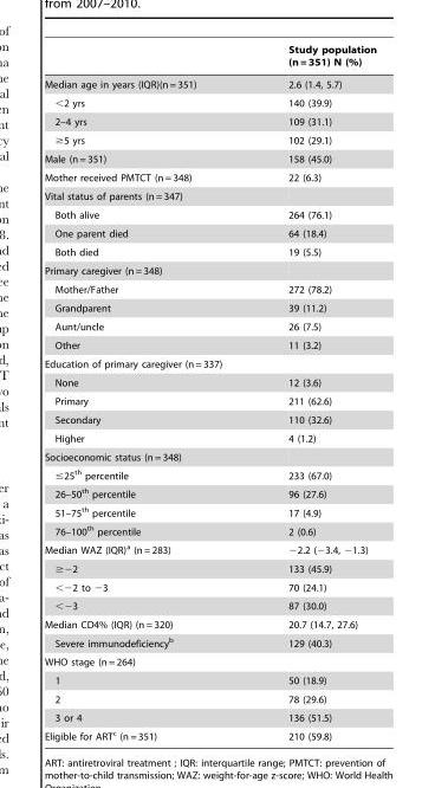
<table><thead><tr><td></td><td>Study population (n = 351) N (%)</td></tr></thead><tbody><tr><td>Median age in years (IQR)(n = 351)</td><td>2.6 (1.4, 5.7)</td></tr><tr><td>&lt;2 yrs</td><td>140 (39.9)</td></tr><tr><td>2–4 yrs</td><td>109 (31.1)</td></tr><tr><td>≥5 yrs</td><td>102 (29.1)</td></tr><tr><td>Male (n = 351)</td><td>158 (45.0)</td></tr><tr><td>Mother received PMTCT (n = 348)</td><td>22 (6.3)</td></tr><tr><td colspan="2">Vital status of parents (n = 347)</td></tr><tr><td>Both alive</td><td>264 (76.1)</td></tr><tr><td>One parent died</td><td>64 (18.4)</td></tr><tr><td>Both died</td><td>19 (5.5)</td></tr><tr><td colspan="2">Primary caregiver (n = 348)</td></tr><tr><td>Mother/Father</td><td>272 (78.2)</td></tr><tr><td>Grandparent</td><td>39 (11.2)</td></tr><tr><td>Aunt/uncle</td><td>26 (7.5)</td></tr><tr><td>Other</td><td>11 (3.2)</td></tr><tr><td colspan="2">Education of primary caregiver (n = 337)</td></tr><tr><td>None</td><td>12 (3.6)</td></tr><tr><td>Primary</td><td>211 (62.6)</td></tr><tr><td>Secondary</td><td>110 (32.6)</td></tr><tr><td>Higher</td><td>4 (1.2)</td></tr><tr><td colspan="2">Socioeconomic status (n = 348)</td></tr><tr><td>≤25<sup>th</sup> percentile</td><td>233 (67.0)</td></tr><tr><td>26–50<sup>th</sup> percentile</td><td>96 (27.6)</td></tr><tr><td>51–75<sup>th</sup> percentile</td><td>17 (4.9)</td></tr><tr><td>76–100<sup>th</sup> percentile</td><td>2 (0.6)</td></tr><tr><td>Median WAZ (IQR)<sup>a</sup> (n = 283)</td><td>−2.2 (−3.4, −1.3)</td></tr><tr><td>≥−2</td><td>133 (45.9)</td></tr><tr><td>&lt;−2 to −3</td><td>70 (24.1)</td></tr><tr><td>&lt;−3</td><td>87 (30.0)</td></tr><tr><td>Median CD4% (IQR) (n = 320)</td><td>20.7 (14.7, 27.6)</td></tr><tr><td>Severe immunodeficiency<sup>b</sup></td><td>129 (40.3)</td></tr><tr><td colspan="2">WHO stage (n = 264)</td></tr><tr><td>1</td><td>50 (18.9)</td></tr><tr><td>2</td><td>78 (29.6)</td></tr><tr><td>3 or 4</td><td>136 (51.5)</td></tr><tr><td>Eligible for ART<sup>c</sup> (n = 351)</td><td>210 (59.8)</td></tr></tbody></table>